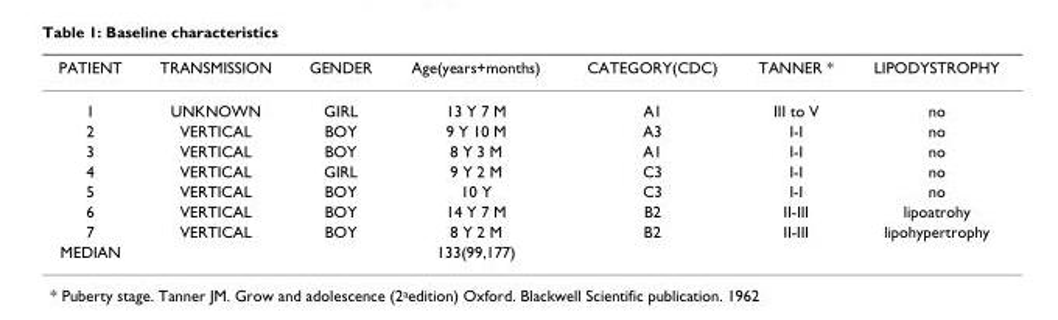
<table><thead><tr><td>PATIENT</td><td>TRANSMISSION</td><td>GENDER</td><td>Age(years+months)</td><td>CATEGORY(CDC)</td><td>TANNER *</td><td>LIPODYSTROPHY</td></tr></thead><tbody><tr><td>1</td><td>UNKNOWN</td><td>GIRL</td><td>13 Y 7 M</td><td>A1</td><td>III to V</td><td>no</td></tr><tr><td>2</td><td>VERTICAL</td><td>BOY</td><td>9 Y 10 M</td><td>A3</td><td>I-I</td><td>no</td></tr><tr><td>3</td><td>VERTICAL</td><td>BOY</td><td>8 Y 3 M</td><td>A1</td><td>I-I</td><td>no</td></tr><tr><td>4</td><td>VERTICAL</td><td>GIRL</td><td>9 Y 2 M</td><td>C3</td><td>I-I</td><td>no</td></tr><tr><td>5</td><td>VERTICAL</td><td>BOY</td><td>10 Y</td><td>C3</td><td>I-I</td><td>no</td></tr><tr><td>6</td><td>VERTICAL</td><td>BOY</td><td>14 Y 7 M</td><td>B2</td><td>II-III</td><td>lipoatrohy</td></tr><tr><td>7</td><td>VERTICAL</td><td>BOY</td><td>8 Y 2 M</td><td>B2</td><td>II-III</td><td>lipohypertrophy</td></tr><tr><td>MEDIAN</td><td></td><td></td><td>133(99,177)</td><td></td><td></td><td></td></tr></tbody></table>